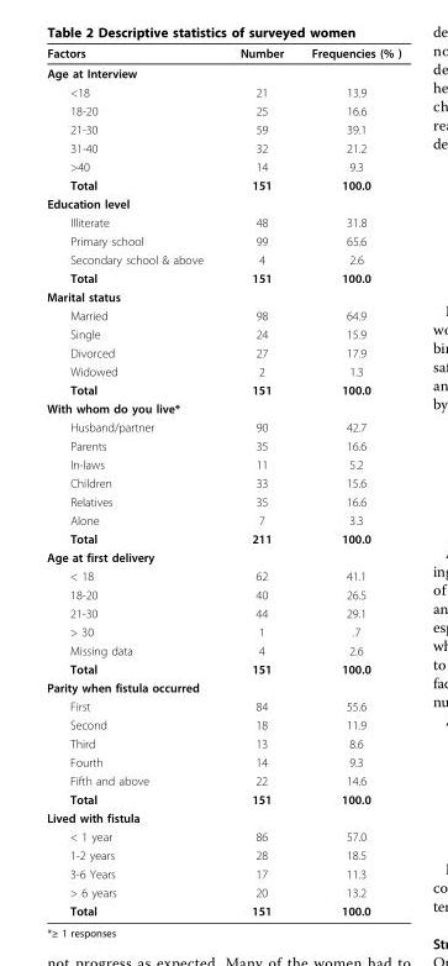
<table><thead><tr><td>Factors</td><td>Number</td><td>Frequencies (% )</td></tr></thead><tbody><tr><td colspan="3">Age at Interview</td></tr><tr><td>&lt;18</td><td>21</td><td>13.9</td></tr><tr><td>18-20</td><td>25</td><td>16.6</td></tr><tr><td>21-30</td><td>59</td><td>39.1</td></tr><tr><td>31-40</td><td>32</td><td>21.2</td></tr><tr><td>&gt;40</td><td>14</td><td>9.3</td></tr><tr><td>Total</td><td>151</td><td>100.0</td></tr><tr><td colspan="3">Education level</td></tr><tr><td>Illiterate</td><td>48</td><td>31.8</td></tr><tr><td>Primary school</td><td>99</td><td>65.6</td></tr><tr><td>Secondary school &amp; above</td><td>4</td><td>2.6</td></tr><tr><td>Total</td><td>151</td><td>100.0</td></tr><tr><td colspan="3">Marital status</td></tr><tr><td>Married</td><td>98</td><td>64.9</td></tr><tr><td>Single</td><td>24</td><td>15.9</td></tr><tr><td>Divorced</td><td>27</td><td>17.9</td></tr><tr><td>Widowed</td><td>2</td><td>1.3</td></tr><tr><td>Total</td><td>151</td><td>100.0</td></tr><tr><td colspan="3">With whom do you live*</td></tr><tr><td>Husband/partner</td><td>90</td><td>42.7</td></tr><tr><td>Parents</td><td>35</td><td>16.6</td></tr><tr><td>In-laws</td><td>11</td><td>5.2</td></tr><tr><td>Children</td><td>33</td><td>15.6</td></tr><tr><td>Relatives</td><td>35</td><td>16.6</td></tr><tr><td>Alone</td><td>7</td><td>3.3</td></tr><tr><td>Total</td><td>211</td><td>100.0</td></tr><tr><td colspan="3">Age at first delivery</td></tr><tr><td>&lt; 18</td><td>62</td><td>41.1</td></tr><tr><td>18-20</td><td>40</td><td>26.5</td></tr><tr><td>21-30</td><td>44</td><td>29.1</td></tr><tr><td>&gt; 30</td><td>1</td><td>.7</td></tr><tr><td>Missing data</td><td>4</td><td>2.6</td></tr><tr><td>Total</td><td>151</td><td>100.0</td></tr><tr><td colspan="3">Parity when fistula occurred</td></tr><tr><td>First</td><td>84</td><td>55.6</td></tr><tr><td>Second</td><td>18</td><td>11.9</td></tr><tr><td>Third</td><td>13</td><td>8.6</td></tr><tr><td>Fourth</td><td>14</td><td>9.3</td></tr><tr><td>Fifth and above</td><td>22</td><td>14.6</td></tr><tr><td>Total</td><td>151</td><td>100.0</td></tr><tr><td colspan="3">Lived with fistula</td></tr><tr><td>&lt; 1 year</td><td>86</td><td>57.0</td></tr><tr><td>1-2 years</td><td>28</td><td>18.5</td></tr><tr><td>3-6 Years</td><td>17</td><td>11.3</td></tr><tr><td>&gt; 6 years</td><td>20</td><td>13.2</td></tr><tr><td>Total</td><td>151</td><td>100.0</td></tr></tbody></table>